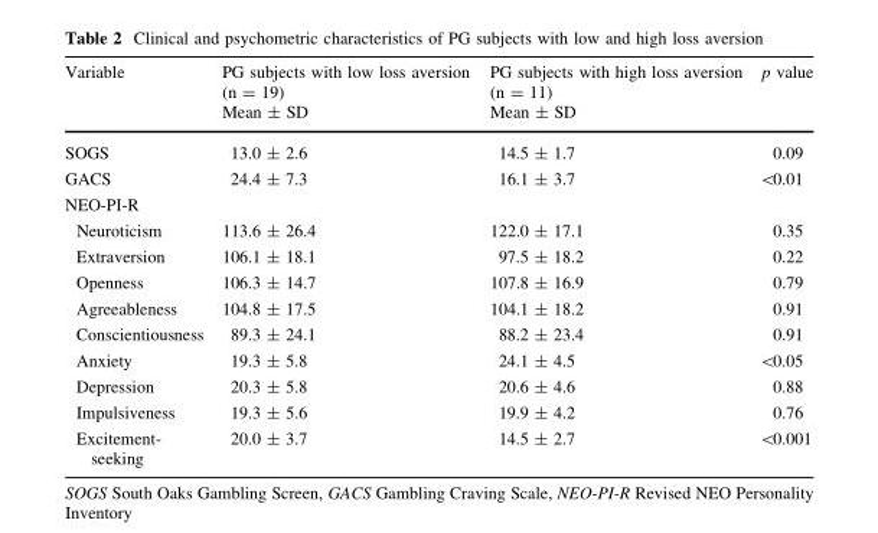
<table><thead><tr><td>Variable</td><td>PG subjects with low loss aversion (n = 19) Mean ± SD</td><td>PG subjects with high loss aversion (n = 11) Mean ± SD</td><td>p value</td></tr></thead><tbody><tr><td>SOGS</td><td>13.0 ± 2.6</td><td>14.5 ± 1.7</td><td>0.09</td></tr><tr><td>GACS</td><td>24.4 ± 7.3</td><td>16.1 ± 3.7</td><td>&lt;0.01</td></tr><tr><td colspan="4">NEO-PI-R</td></tr><tr><td>Neuroticism</td><td>113.6 ± 26.4</td><td>122.0 ± 17.1</td><td>0.35</td></tr><tr><td>Extraversion</td><td>106.1 ± 18.1</td><td>97.5 ± 18.2</td><td>0.22</td></tr><tr><td>Openness</td><td>106.3 ± 14.7</td><td>107.8 ± 16.9</td><td>0.79</td></tr><tr><td>Agreeableness</td><td>104.8 ± 17.5</td><td>104.1 ± 18.2</td><td>0.91</td></tr><tr><td>Conscientiousness</td><td>89.3 ± 24.1</td><td>88.2 ± 23.4</td><td>0.91</td></tr><tr><td>Anxiety</td><td>19.3 ± 5.8</td><td>24.1 ± 4.5</td><td>&lt;0.05</td></tr><tr><td>Depression</td><td>20.3 ± 5.8</td><td>20.6 ± 4.6</td><td>0.88</td></tr><tr><td>Impulsiveness</td><td>19.3 ± 5.6</td><td>19.9 ± 4.2</td><td>0.76</td></tr><tr><td>Excitement- seeking</td><td>20.0 ± 3.7</td><td>14.5 ± 2.7</td><td>&lt;0.001</td></tr></tbody></table>